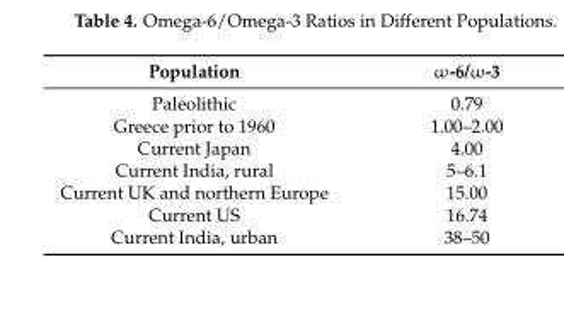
<table><thead><tr><td>Population</td><td>ω-6/ω-3</td></tr></thead><tbody><tr><td>Paleolithic</td><td>0.79</td></tr><tr><td>Greece prior to 1960</td><td>1.00–2.00</td></tr><tr><td>Current Japan</td><td>4.00</td></tr><tr><td>Current India, rural</td><td>5–6.1</td></tr><tr><td>Current UK and northern Europe</td><td>15.00</td></tr><tr><td>Current US</td><td>16.74</td></tr><tr><td>Current India, urban</td><td>38–50</td></tr></tbody></table>